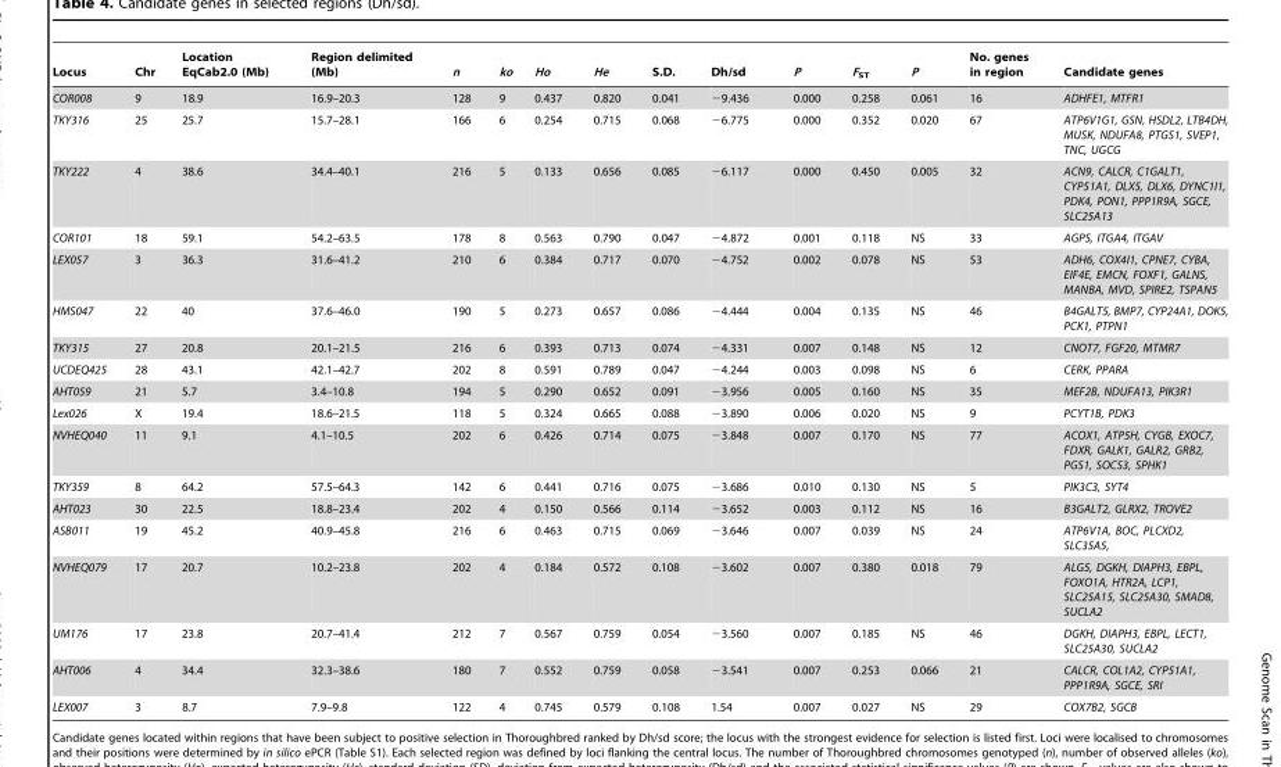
<table><thead><tr><td>Locus</td><td>Chr</td><td>Location EqCab2.0 (Mb)</td><td>Region delimited (Mb)</td><td>n</td><td>ko</td><td>Ho</td><td>He</td><td>S.D.</td><td>Dh/sd</td><td>P</td><td>F<sub>ST</sub></td><td>P</td><td>No. genes in region</td><td>Candidate genes</td></tr></thead><tbody><tr><td>COR008</td><td>9</td><td>18.9</td><td>16.9–20.3</td><td>128</td><td>9</td><td>0.437</td><td>0.820</td><td>0.041</td><td>−9.436</td><td>0.000</td><td>0.258</td><td>0.061</td><td>16</td><td>ADHFE1, MTFR1</td></tr><tr><td>TKY316</td><td>25</td><td>25.7</td><td>15.7–28.1</td><td>166</td><td>6</td><td>0.254</td><td>0.715</td><td>0.068</td><td>−6.775</td><td>0.000</td><td>0.352</td><td>0.020</td><td>67</td><td>ATP6V1G1, GSN, HSDL2, LTB4DH, MUSK, NDUFA8, PTGS1, SVEP1, TNC, UGCG</td></tr><tr><td>TKY222</td><td>4</td><td>38.6</td><td>34.4–40.1</td><td>216</td><td>5</td><td>0.133</td><td>0.656</td><td>0.085</td><td>−6.117</td><td>0.000</td><td>0.450</td><td>0.005</td><td>32</td><td>ACN9, CALCR, C1GALT1, CYP51A1, DLX5, DLX6, DYNC1I1, PDK4, PON1, PPP1R9A, SGCE, SLC25A13</td></tr><tr><td>COR101</td><td>18</td><td>59.1</td><td>54.2–63.5</td><td>178</td><td>8</td><td>0.563</td><td>0.790</td><td>0.047</td><td>−4.872</td><td>0.001</td><td>0.118</td><td>NS</td><td>33</td><td>AGPS, ITGA4, ITGAV</td></tr><tr><td>LEX057</td><td>3</td><td>36.3</td><td>31.6–41.2</td><td>210</td><td>6</td><td>0.384</td><td>0.717</td><td>0.070</td><td>−4.752</td><td>0.002</td><td>0.078</td><td>NS</td><td>53</td><td>ADH6, COX4I1, CPNE7, CYBA, EIF4E, EMCN, FOXF1, GALNS, MANBA, MVD, SPIRE2, TSPAN5</td></tr><tr><td>HMS047</td><td>22</td><td>40</td><td>37.6–46.0</td><td>190</td><td>5</td><td>0.273</td><td>0.657</td><td>0.086</td><td>−4.444</td><td>0.004</td><td>0.135</td><td>NS</td><td>46</td><td>B4GALT5, BMP7, CYP24A1, DOK5, PCK1, PTPN1</td></tr><tr><td>TKY315</td><td>27</td><td>20.8</td><td>20.1–21.5</td><td>216</td><td>6</td><td>0.393</td><td>0.713</td><td>0.074</td><td>−4.331</td><td>0.007</td><td>0.148</td><td>NS</td><td>12</td><td>CNOT7, FGF20, MTMR7</td></tr><tr><td>UCDEQ425</td><td>28</td><td>43.1</td><td>42.1–42.7</td><td>202</td><td>8</td><td>0.591</td><td>0.789</td><td>0.047</td><td>−4.244</td><td>0.003</td><td>0.098</td><td>NS</td><td>6</td><td>CERK, PPARA</td></tr><tr><td>AHT059</td><td>21</td><td>5.7</td><td>3.4–10.8</td><td>194</td><td>5</td><td>0.290</td><td>0.652</td><td>0.091</td><td>−3.956</td><td>0.005</td><td>0.160</td><td>NS</td><td>35</td><td>MEF2B, NDUFA13, PIK3R1</td></tr><tr><td>Lex026</td><td>X</td><td>19.4</td><td>18.6–21.5</td><td>118</td><td>5</td><td>0.324</td><td>0.665</td><td>0.088</td><td>−3.890</td><td>0.006</td><td>0.020</td><td>NS</td><td>9</td><td>PCYT1B, PDK3</td></tr><tr><td>NVHEQ040</td><td>11</td><td>9.1</td><td>4.1–10.5</td><td>202</td><td>6</td><td>0.426</td><td>0.714</td><td>0.075</td><td>−3.848</td><td>0.007</td><td>0.170</td><td>NS</td><td>77</td><td>ACOX1, ATP5H, CYGB, EXOC7, FDXR, GALK1, GALR2, GRB2, PGS1, SOCS3, SPHK1</td></tr><tr><td>TKY359</td><td>8</td><td>64.2</td><td>57.5–64.3</td><td>142</td><td>6</td><td>0.441</td><td>0.716</td><td>0.075</td><td>−3.686</td><td>0.010</td><td>0.130</td><td>NS</td><td>5</td><td>PIK3C3, SYT4</td></tr><tr><td>AHT023</td><td>30</td><td>22.5</td><td>18.8–23.4</td><td>202</td><td>4</td><td>0.150</td><td>0.566</td><td>0.114</td><td>−3.652</td><td>0.003</td><td>0.112</td><td>NS</td><td>16</td><td>B3GALT2, GLRX2, TROVE2</td></tr><tr><td>ASB011</td><td>19</td><td>45.2</td><td>40.9–45.8</td><td>216</td><td>6</td><td>0.463</td><td>0.715</td><td>0.069</td><td>−3.646</td><td>0.007</td><td>0.039</td><td>NS</td><td>24</td><td>ATP6V1A, BOC, PLCXD2, SLC35A5,</td></tr><tr><td>NVHEQ079</td><td>17</td><td>20.7</td><td>10.2–23.8</td><td>202</td><td>4</td><td>0.184</td><td>0.572</td><td>0.108</td><td>−3.602</td><td>0.007</td><td>0.380</td><td>0.018</td><td>79</td><td>ALG5, DGKH, DIAPH3, EBPL, FOXO1A, HTR2A, LCP1, SLC25A15, SLC25A30, SMAD8, SUCLA2</td></tr><tr><td>UM176</td><td>17</td><td>23.8</td><td>20.7–41.4</td><td>212</td><td>7</td><td>0.567</td><td>0.759</td><td>0.054</td><td>−3.560</td><td>0.007</td><td>0.185</td><td>NS</td><td>46</td><td>DGKH, DIAPH3, EBPL, LECT1, SLC25A30, SUCLA2</td></tr><tr><td>AHT006</td><td>4</td><td>34.4</td><td>32.3–38.6</td><td>180</td><td>7</td><td>0.552</td><td>0.759</td><td>0.058</td><td>−3.541</td><td>0.007</td><td>0.253</td><td>0.066</td><td>21</td><td>CALCR, COL1A2, CYP51A1, PPP1R9A, SGCE, SRI</td></tr><tr><td>LEX007</td><td>3</td><td>8.7</td><td>7.9–9.8</td><td>122</td><td>4</td><td>0.745</td><td>0.579</td><td>0.108</td><td>1.54</td><td>0.007</td><td>0.027</td><td>NS</td><td>29</td><td>COX7B2, SGCB</td></tr></tbody></table>